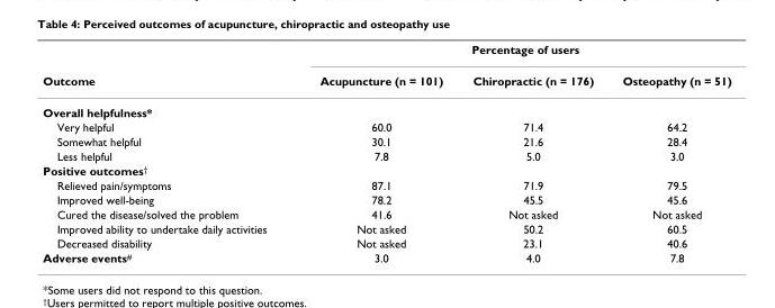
<table><thead><tr><td rowspan="2">Outcome</td><td colspan="3">Percentage of users</td></tr><tr><td>Acupuncture (n = 101)</td><td>Chiropractic (n = 176)</td><td>Osteopathy (n = 51)</td></tr></thead><tbody><tr><td colspan="4">Overall helpfulness*</td></tr><tr><td>Very helpful</td><td>60.0</td><td>71.4</td><td>64.2</td></tr><tr><td>Somewhat helpful</td><td>30.1</td><td>21.6</td><td>28.4</td></tr><tr><td>Less helpful</td><td>7.8</td><td>5.0</td><td>3.0</td></tr><tr><td colspan="4">Positive outcomes<sup>†</sup></td></tr><tr><td>Relieved pain/symptoms</td><td>87.1</td><td>71.9</td><td>79.5</td></tr><tr><td>Improved well-being</td><td>78.2</td><td>45.5</td><td>45.6</td></tr><tr><td>Cured the disease/solved the problem</td><td>41.6</td><td>Not asked</td><td>Not asked</td></tr><tr><td>Improved ability to undertake daily activities</td><td>Not asked</td><td>50.2</td><td>60.5</td></tr><tr><td>Decreased disability</td><td>Not asked</td><td>23.1</td><td>40.6</td></tr><tr><td>Adverse events<sup>#</sup></td><td>3.0</td><td>4.0</td><td>7.8</td></tr></tbody></table>